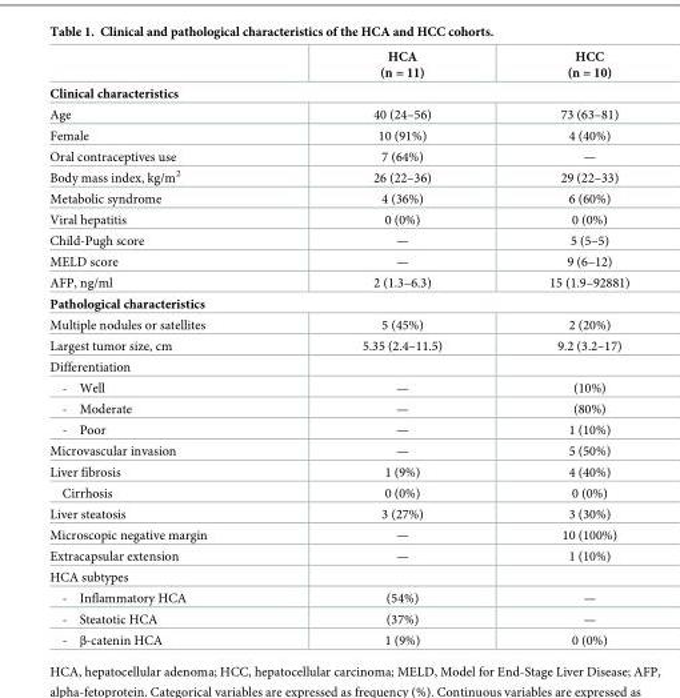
<table><thead><tr><td></td><td>HCA (n = 11)</td><td>HCC (n = 10)</td></tr></thead><tbody><tr><td colspan="3">Clinical characteristics</td></tr><tr><td>Age</td><td>40 (24–56)</td><td>73 (63–81)</td></tr><tr><td>Female</td><td>10 (91%)</td><td>4 (40%)</td></tr><tr><td>Oral contraceptives use</td><td>7 (64%)</td><td>—</td></tr><tr><td>Body mass index, kg/m<sup>2</sup></td><td>26 (22–36)</td><td>29 (22–33)</td></tr><tr><td>Metabolic syndrome</td><td>4 (36%)</td><td>6 (60%)</td></tr><tr><td>Viral hepatitis</td><td>0 (0%)</td><td>0 (0%)</td></tr><tr><td>Child-Pugh score</td><td>—</td><td>5 (5–5)</td></tr><tr><td>MELD score</td><td>—</td><td>9 (6–12)</td></tr><tr><td>AFP, ng/ml</td><td>2 (1.3–6.3)</td><td>15 (1.9–92881)</td></tr><tr><td colspan="3">Pathological characteristics</td></tr><tr><td>Multiple nodules or satellites</td><td>5 (45%)</td><td>2 (20%)</td></tr><tr><td>Largest tumor size, cm</td><td>5.35 (2.4–11.5)</td><td>9.2 (3.2–17)</td></tr><tr><td colspan="3">Differentiation</td></tr><tr><td>- Well</td><td>—</td><td>(10%)</td></tr><tr><td>- Moderate</td><td>—</td><td>(80%)</td></tr><tr><td>- Poor</td><td>—</td><td>1 (10%)</td></tr><tr><td>Microvascular invasion</td><td>—</td><td>5 (50%)</td></tr><tr><td>Liver fibrosis</td><td>1 (9%)</td><td>4 (40%)</td></tr><tr><td>Cirrhosis</td><td>0 (0%)</td><td>0 (0%)</td></tr><tr><td>Liver steatosis</td><td>3 (27%)</td><td>3 (30%)</td></tr><tr><td>Microscopic negative margin</td><td>—</td><td>10 (100%)</td></tr><tr><td>Extracapsular extension</td><td>—</td><td>1 (10%)</td></tr><tr><td colspan="3">HCA subtypes</td></tr><tr><td>- Inflammatory HCA</td><td>(54%)</td><td>—</td></tr><tr><td>- Steatotic HCA</td><td>(37%)</td><td>—</td></tr><tr><td>- β-catenin HCA</td><td>1 (9%)</td><td>0 (0%)</td></tr></tbody></table>